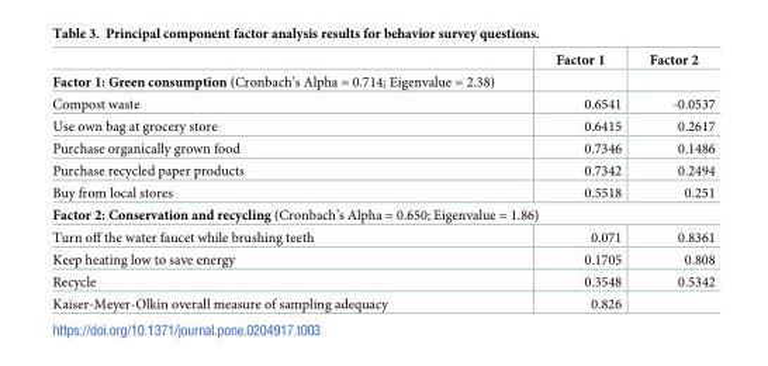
<table><thead><tr><td></td><td>Factor 1</td><td>Factor 2</td></tr></thead><tbody><tr><td colspan="3">Factor 1: Green consumption (Cronbach’s Alpha = 0.714; Eigenvalue = 2.38)</td></tr><tr><td>Compost waste</td><td>0.6541</td><td>-0.0537</td></tr><tr><td>Use own bag at grocery store</td><td>0.6415</td><td>0.2617</td></tr><tr><td>Purchase organically grown food</td><td>0.7346</td><td>0.1486</td></tr><tr><td>Purchase recycled paper products</td><td>0.7342</td><td>0.2494</td></tr><tr><td>Buy from local stores</td><td>0.5518</td><td>0.251</td></tr><tr><td colspan="3">Factor 2: Conservation and recycling (Cronbach’s Alpha = 0.650; Eigenvalue = 1.86)</td></tr><tr><td>Turn off the water faucet while brushing teeth</td><td>0.071</td><td>0.8361</td></tr><tr><td>Keep heating low to save energy</td><td>0.1705</td><td>0.808</td></tr><tr><td>Recycle</td><td>0.3548</td><td>0.5342</td></tr><tr><td>Kaiser-Meyer-Olkin overall measure of sampling adequacy</td><td>0.826</td><td></td></tr></tbody></table>